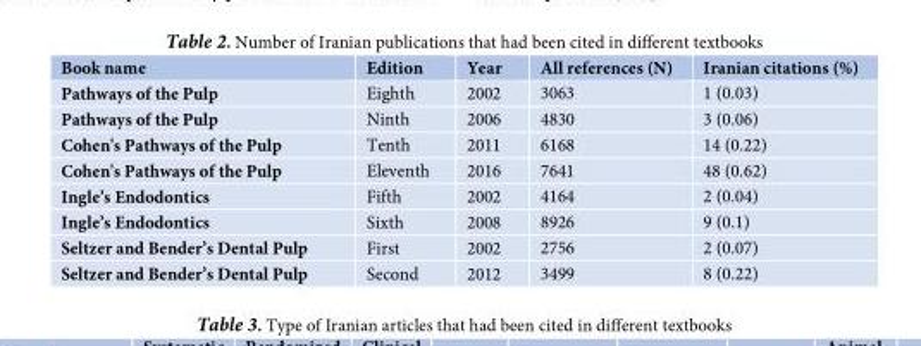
<table><thead><tr><td>Book name</td><td>Edition</td><td>Year</td><td>All references (N)</td><td>Iranian citations (%)</td></tr></thead><tbody><tr><td>Pathways of the Pulp</td><td>Eighth</td><td>2002</td><td>3063</td><td>1 (0.03)</td></tr><tr><td>Pathways of the Pulp</td><td>Ninth</td><td>2006</td><td>4830</td><td>3 (0.06)</td></tr><tr><td>Cohen&#x27;s Pathways of the Pulp</td><td>Tenth</td><td>2011</td><td>6168</td><td>14 (0.22)</td></tr><tr><td>Cohen&#x27;s Pathways of the Pulp</td><td>Eleventh</td><td>2016</td><td>7641</td><td>48 (0.62)</td></tr><tr><td>Ingle’s Endodontics</td><td>Fifth</td><td>2002</td><td>4164</td><td>2 (0.04)</td></tr><tr><td>Ingle’s Endodontics</td><td>Sixth</td><td>2008</td><td>8926</td><td>9 (0.1)</td></tr><tr><td>Seltzer and Bender’s Dental Pulp</td><td>First</td><td>2002</td><td>2756</td><td>2 (0.07)</td></tr><tr><td>Seltzer and Bender’s Dental Pulp</td><td>Second</td><td>2012</td><td>3499</td><td>8 (0.22)</td></tr></tbody></table>